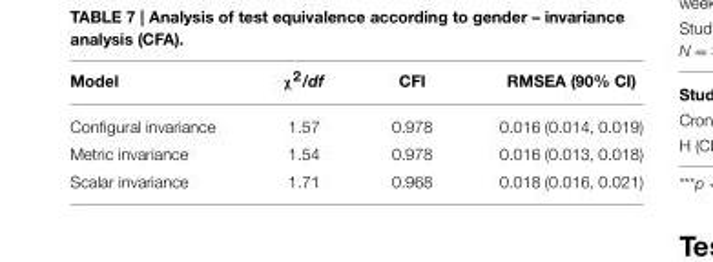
<table><thead><tr><td>Model</td><td>χ<sup>2</sup>/df</td><td>CFI</td><td>RMSEA (90% CI)</td></tr></thead><tbody><tr><td>Configural invariance</td><td>1.57</td><td>0.978</td><td>0.016 (0.014, 0.019)</td></tr><tr><td>Metric invariance</td><td>1.54</td><td>0.978</td><td>0.016 (0.013, 0.018)</td></tr><tr><td>Scalar invariance</td><td>1.71</td><td>0.968</td><td>0.018 (0.016, 0.021)</td></tr></tbody></table>